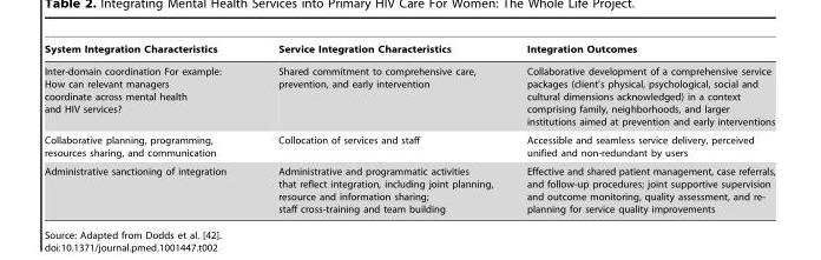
<table><thead><tr><td>System Integration Characteristics</td><td>Service Integration Characteristics</td><td>Integration Outcomes</td></tr></thead><tbody><tr><td>Inter-domain coordination For example: How can relevant managers coordinate across mental health and HIV services?</td><td>Shared commitment to comprehensive care, prevention, and early intervention</td><td>Collaborative development of a comprehensive service packages (client’s physical, psychological, social and cultural dimensions acknowledged) in a context comprising family, neighborhoods, and larger institutions aimed at prevention and early interventions</td></tr><tr><td>Collaborative planning, programming, resources sharing, and communication</td><td>Collocation of services and staff</td><td>Accessible and seamless service delivery, perceived unified and non-redundant by users</td></tr><tr><td>Administrative sanctioning of integration</td><td>Administrative and programmatic activities that reflect integration, including joint planning, resource and information sharing; staff cross-training and team building</td><td>Effective and shared patient management, case referrals, and follow-up procedures; joint supportive supervision and outcome monitoring, quality assessment, and re- planning for service quality improvements</td></tr></tbody></table>